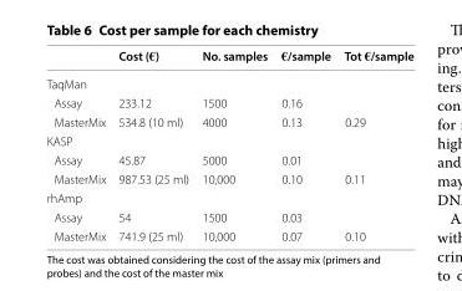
<table><thead><tr><td></td><td>Cost (€)</td><td>No. samples</td><td>€/sample</td><td>Tot €/sample</td></tr></thead><tbody><tr><td colspan="5">TaqMan</td></tr><tr><td>Assay</td><td>233.12</td><td>1500</td><td>0.16</td><td></td></tr><tr><td>MasterMix</td><td>534.8 (10 ml)</td><td>4000</td><td>0.13</td><td>0.29</td></tr><tr><td colspan="5">KASP</td></tr><tr><td>Assay</td><td>45.87</td><td>5000</td><td>0.01</td><td></td></tr><tr><td>MasterMix</td><td>987.53 (25 ml)</td><td>10,000</td><td>0.10</td><td>0.11</td></tr><tr><td colspan="5">rhAmp</td></tr><tr><td>Assay</td><td>54</td><td>1500</td><td>0.03</td><td></td></tr><tr><td>MasterMix</td><td>741.9 (25 ml)</td><td>10,000</td><td>0.07</td><td>0.10</td></tr></tbody></table>